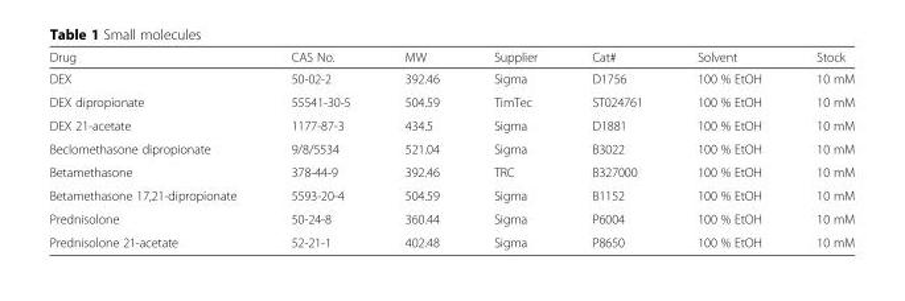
<table><thead><tr><td>Drug</td><td>CAS No.</td><td>MW</td><td>Supplier</td><td>Cat#</td><td>Solvent</td><td>Stock</td></tr></thead><tbody><tr><td>DEX</td><td>50-02-2</td><td>392.46</td><td>Sigma</td><td>D1756</td><td>100 % EtOH</td><td>10 mM</td></tr><tr><td>DEX dipropionate</td><td>55541-30-5</td><td>504.59</td><td>TimTec</td><td>ST024761</td><td>100 % EtOH</td><td>10 mM</td></tr><tr><td>DEX 21-acetate</td><td>1177-87-3</td><td>434.5</td><td>Sigma</td><td>D1881</td><td>100 % EtOH</td><td>10 mM</td></tr><tr><td>Beclomethasone dipropionate</td><td>9/8/5534</td><td>521.04</td><td>Sigma</td><td>B3022</td><td>100 % EtOH</td><td>10 mM</td></tr><tr><td>Betamethasone</td><td>378-44-9</td><td>392.46</td><td>TRC</td><td>B327000</td><td>100 % EtOH</td><td>10 mM</td></tr><tr><td>Betamethasone 17,21-dipropionate</td><td>5593-20-4</td><td>504.59</td><td>Sigma</td><td>B1152</td><td>100 % EtOH</td><td>10 mM</td></tr><tr><td>Prednisolone</td><td>50-24-8</td><td>360.44</td><td>Sigma</td><td>P6004</td><td>100 % EtOH</td><td>10 mM</td></tr><tr><td>Prednisolone 21-acetate</td><td>52-21-1</td><td>402.48</td><td>Sigma</td><td>P8650</td><td>100 % EtOH</td><td>10 mM</td></tr></tbody></table>